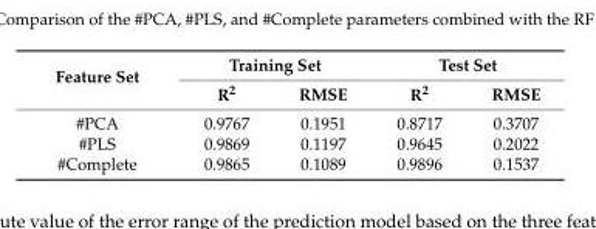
<table><thead><tr><td rowspan="2">Feature Set</td><td colspan="2">Training Set</td><td colspan="2">Test Set</td></tr><tr><td>R<sup>2</sup></td><td>RMSE</td><td>R<sup>2</sup></td><td>RMSE</td></tr></thead><tbody><tr><td>#PCA</td><td>0.9767</td><td>0.1951</td><td>0.8717</td><td>0.3707</td></tr><tr><td>#PLS</td><td>0.9869</td><td>0.1197</td><td>0.9645</td><td>0.2022</td></tr><tr><td>#Complete</td><td>0.9865</td><td>0.1089</td><td>0.9896</td><td>0.1537</td></tr></tbody></table>